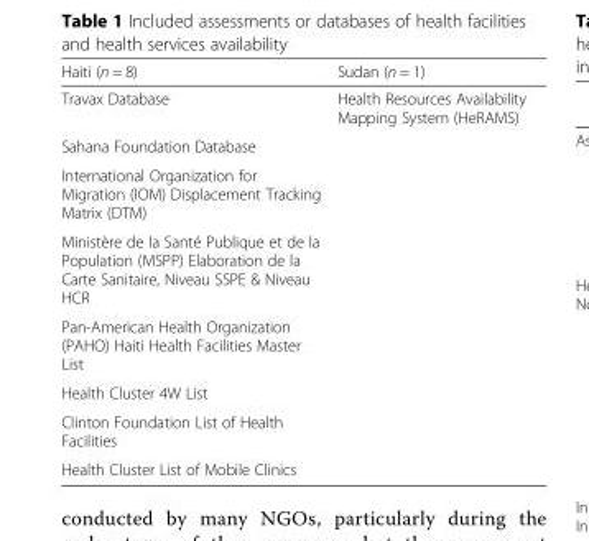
<table><thead><tr><td>Haiti (n = 8)</td><td>Sudan (n = 1)</td></tr></thead><tbody><tr><td>Travax Database</td><td>Health Resources Availability Mapping System (HeRAMS)</td></tr><tr><td colspan="2">Sahana Foundation Database</td></tr><tr><td colspan="2">International Organization for Migration (IOM) Displacement Tracking Matrix (DTM)</td></tr><tr><td colspan="2">Ministère de la Santé Publique et de la Population (MSPP) Elaboration de la Carte Sanitaire, Niveau SSPE &amp; Niveau HCR</td></tr><tr><td colspan="2">Pan-American Health Organization (PAHO) Haiti Health Facilities Master List</td></tr><tr><td colspan="2">Health Cluster 4W List</td></tr><tr><td colspan="2">Clinton Foundation List of Health Facilities</td></tr><tr><td>Health Cluster List of Mobile Clinics</td><td></td></tr></tbody></table>